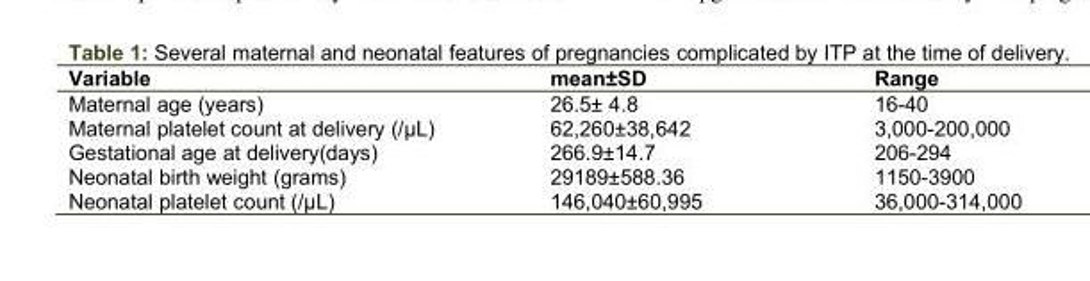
<table><thead><tr><td>Variable</td><td>mean±SD</td><td>Range</td></tr></thead><tbody><tr><td>Maternal age (years)</td><td>26.5± 4.8</td><td>16-40</td></tr><tr><td>Maternal platelet count at delivery (/µL)</td><td>62,260±38,642</td><td>3,000-200,000</td></tr><tr><td>Gestational age at delivery(days)</td><td>266.9±14.7</td><td>206-294</td></tr><tr><td>Neonatal birth weight (grams)</td><td>29189±588.36</td><td>1150-3900</td></tr><tr><td>Neonatal platelet count (/µL)</td><td>146,040±60,995</td><td>36,000-314,000</td></tr></tbody></table>